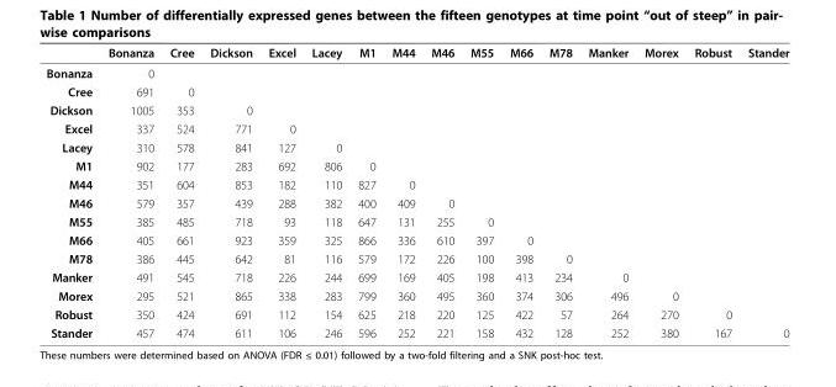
<table><thead><tr><td></td><td>Bonanza</td><td>Cree</td><td>Dickson</td><td>Excel</td><td>Lacey</td><td>M1</td><td>M44</td><td>M46</td><td>M55</td><td>M66</td><td>M78</td><td>Manker</td><td>Morex</td><td>Robust</td><td>Stander</td></tr></thead><tbody><tr><td>Bonanza</td><td>0</td><td></td><td></td><td></td><td></td><td></td><td></td><td></td><td></td><td></td><td></td><td></td><td></td><td></td><td></td></tr><tr><td>Cree</td><td>691</td><td>0</td><td></td><td></td><td></td><td></td><td></td><td></td><td></td><td></td><td></td><td></td><td></td><td></td><td></td></tr><tr><td>Dickson</td><td>1005</td><td>353</td><td>0</td><td></td><td></td><td></td><td></td><td></td><td></td><td></td><td></td><td></td><td></td><td></td><td></td></tr><tr><td>Excel</td><td>337</td><td>524</td><td>771</td><td>0</td><td></td><td></td><td></td><td></td><td></td><td></td><td></td><td></td><td></td><td></td><td></td></tr><tr><td>Lacey</td><td>310</td><td>578</td><td>841</td><td>127</td><td>0</td><td></td><td></td><td></td><td></td><td></td><td></td><td></td><td></td><td></td><td></td></tr><tr><td>M1</td><td>902</td><td>177</td><td>283</td><td>692</td><td>806</td><td>0</td><td></td><td></td><td></td><td></td><td></td><td></td><td></td><td></td><td></td></tr><tr><td>M44</td><td>351</td><td>604</td><td>853</td><td>182</td><td>110</td><td>827</td><td>0</td><td></td><td></td><td></td><td></td><td></td><td></td><td></td><td></td></tr><tr><td>M46</td><td>579</td><td>357</td><td>439</td><td>288</td><td>382</td><td>400</td><td>409</td><td>0</td><td></td><td></td><td></td><td></td><td></td><td></td><td></td></tr><tr><td>M55</td><td>385</td><td>485</td><td>718</td><td>93</td><td>118</td><td>647</td><td>131</td><td>255</td><td>0</td><td></td><td></td><td></td><td></td><td></td><td></td></tr><tr><td>M66</td><td>405</td><td>661</td><td>923</td><td>359</td><td>325</td><td>866</td><td>336</td><td>610</td><td>397</td><td>0</td><td></td><td></td><td></td><td></td><td></td></tr><tr><td>M78</td><td>386</td><td>445</td><td>642</td><td>81</td><td>116</td><td>579</td><td>172</td><td>226</td><td>100</td><td>398</td><td>0</td><td></td><td></td><td></td><td></td></tr><tr><td>Manker</td><td>491</td><td>545</td><td>718</td><td>226</td><td>244</td><td>699</td><td>169</td><td>405</td><td>198</td><td>413</td><td>234</td><td>0</td><td></td><td></td><td></td></tr><tr><td>Morex</td><td>295</td><td>521</td><td>865</td><td>338</td><td>283</td><td>799</td><td>360</td><td>495</td><td>360</td><td>374</td><td>306</td><td>496</td><td>0</td><td></td><td></td></tr><tr><td>Robust</td><td>350</td><td>424</td><td>691</td><td>112</td><td>154</td><td>625</td><td>218</td><td>220</td><td>125</td><td>422</td><td>57</td><td>264</td><td>270</td><td>0</td><td></td></tr><tr><td>Stander</td><td>457</td><td>474</td><td>611</td><td>106</td><td>246</td><td>596</td><td>252</td><td>221</td><td>158</td><td>432</td><td>128</td><td>252</td><td>380</td><td>167</td><td>0</td></tr></tbody></table>